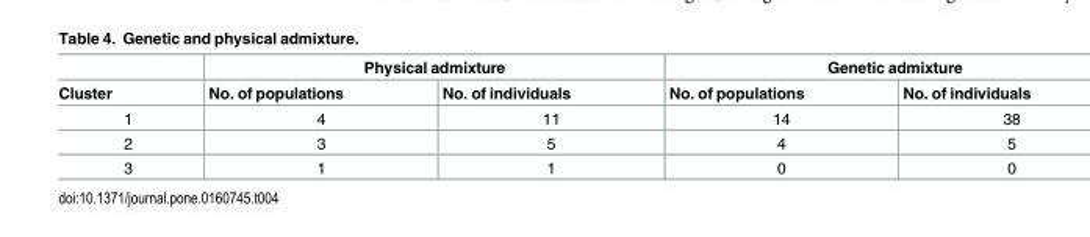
<table><thead><tr><td rowspan="2">Cluster</td><td colspan="2">Physical admixture</td><td colspan="2">Genetic admixture</td></tr><tr><td>No. of populations</td><td>No. of individuals</td><td>No. of populations</td><td>No. of individuals</td></tr></thead><tbody><tr><td>1</td><td>4</td><td>11</td><td>14</td><td>38</td></tr><tr><td>2</td><td>3</td><td>5</td><td>4</td><td>5</td></tr><tr><td>3</td><td>1</td><td>1</td><td>0</td><td>0</td></tr></tbody></table>